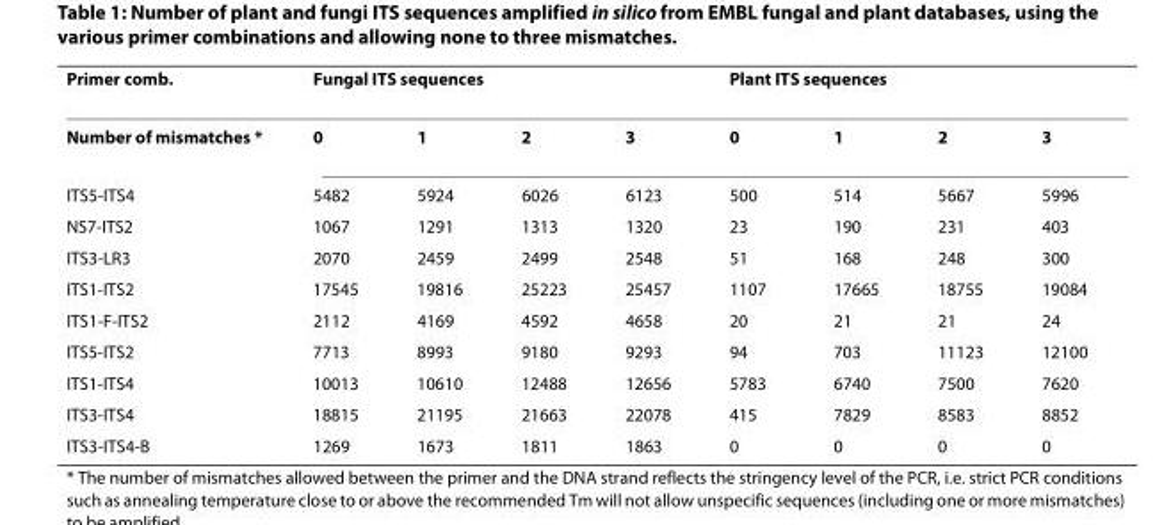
<table><thead><tr><td rowspan="2">Primer comb. Number of mismatches *</td><td colspan="4">Fungal ITS sequences</td><td colspan="4">Plant ITS sequences</td></tr><tr><td>0</td><td>1</td><td>2</td><td>3</td><td>0</td><td>1</td><td>2</td><td>3</td></tr></thead><tbody><tr><td>ITS5-ITS4</td><td>5482</td><td>5924</td><td>6026</td><td>6123</td><td>500</td><td>514</td><td>5667</td><td>5996</td></tr><tr><td>NS7-ITS2</td><td>1067</td><td>1291</td><td>1313</td><td>1320</td><td>23</td><td>190</td><td>231</td><td>403</td></tr><tr><td>ITS3-LR3</td><td>2070</td><td>2459</td><td>2499</td><td>2548</td><td>51</td><td>168</td><td>248</td><td>300</td></tr><tr><td>ITS1-ITS2</td><td>17545</td><td>19816</td><td>25223</td><td>25457</td><td>1107</td><td>17665</td><td>18755</td><td>19084</td></tr><tr><td>ITS1-F-ITS2</td><td>2112</td><td>4169</td><td>4592</td><td>4658</td><td>20</td><td>21</td><td>21</td><td>24</td></tr><tr><td>ITS5-ITS2</td><td>7713</td><td>8993</td><td>9180</td><td>9293</td><td>94</td><td>703</td><td>11123</td><td>12100</td></tr><tr><td>ITS1-ITS4</td><td>10013</td><td>10610</td><td>12488</td><td>12656</td><td>5783</td><td>6740</td><td>7500</td><td>7620</td></tr><tr><td>ITS3-ITS4</td><td>18815</td><td>21195</td><td>21663</td><td>22078</td><td>415</td><td>7829</td><td>8583</td><td>8852</td></tr><tr><td>ITS3-ITS4-B</td><td>1269</td><td>1673</td><td>1811</td><td>1863</td><td>0</td><td>0</td><td>0</td><td>0</td></tr></tbody></table>